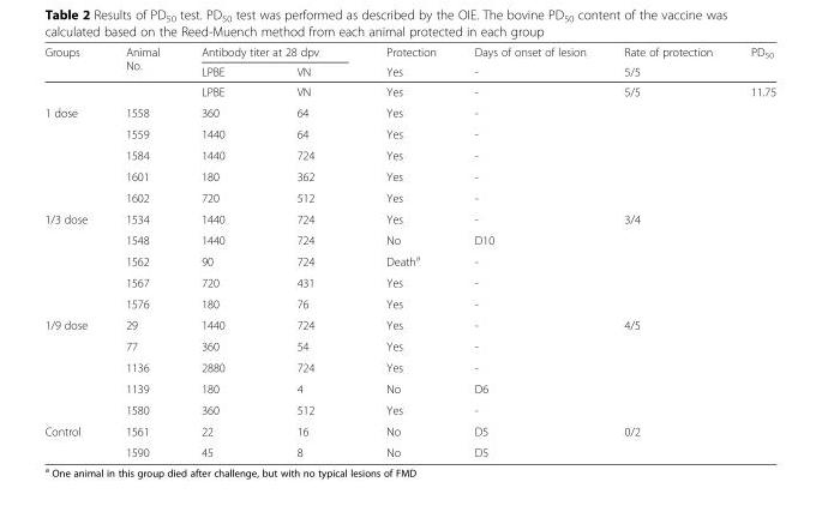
<table><thead><tr><td rowspan="2">Groups</td><td rowspan="2">Animal No.</td><td colspan="2">Antibody titer at 28 dpv</td><td rowspan="2">Protection Yes</td><td rowspan="2">Days of onset of lesion -</td><td rowspan="2">Rate of protection 5/5</td><td rowspan="2">PD<sub>50</sub></td></tr><tr><td>LPBE</td><td>VN</td></tr></thead><tbody><tr><td></td><td></td><td>LPBE</td><td>VN</td><td>Yes</td><td>-</td><td rowspan="6">5/5</td><td rowspan="16">11.75</td></tr><tr><td rowspan="5">1 dose</td><td>1558</td><td>360</td><td>64</td><td>Yes</td><td>-</td></tr><tr><td>1559</td><td>1440</td><td>64</td><td>Yes</td><td>-</td></tr><tr><td>1584</td><td>1440</td><td>724</td><td>Yes</td><td>-</td></tr><tr><td>1601</td><td>180</td><td>362</td><td>Yes</td><td>-</td></tr><tr><td>1602</td><td>720</td><td>512</td><td>Yes</td><td>-</td></tr><tr><td rowspan="5">1/3 dose</td><td>1534</td><td>1440</td><td>724</td><td>Yes</td><td>-</td><td rowspan="5">3/4</td></tr><tr><td>1548</td><td>1440</td><td>724</td><td>No</td><td>D10</td></tr><tr><td>1562</td><td>90</td><td>724</td><td>Death<sup>a</sup></td><td>-</td></tr><tr><td>1567</td><td>720</td><td>431</td><td>Yes</td><td>-</td></tr><tr><td>1576</td><td>180</td><td>76</td><td>Yes</td><td>-</td></tr><tr><td rowspan="5">1/9 dose</td><td>29</td><td>1440</td><td>724</td><td>Yes</td><td>-</td><td rowspan="5">4/5</td></tr><tr><td>77</td><td>360</td><td>54</td><td>Yes</td><td>-</td></tr><tr><td>1136</td><td>2880</td><td>724</td><td>Yes</td><td>-</td></tr><tr><td>1139</td><td>180</td><td>4</td><td>No</td><td>D6</td></tr><tr><td>1580</td><td>360</td><td>512</td><td>Yes</td><td>-</td></tr><tr><td rowspan="2">Control</td><td>1561</td><td>22</td><td>16</td><td>No</td><td>D5</td><td rowspan="2">0/2</td><td rowspan="2"></td></tr><tr><td>1590</td><td>45</td><td>8</td><td>No</td><td>D5</td></tr></tbody></table>